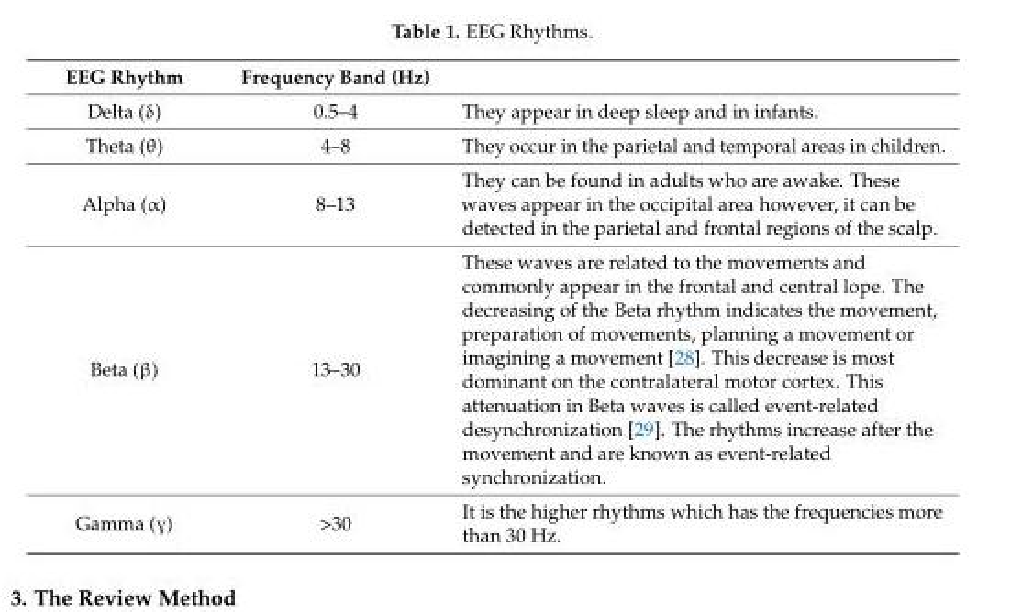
<table><thead><tr><td>EEG Rhythm</td><td>Frequency Band (Hz)</td><td></td></tr></thead><tbody><tr><td>Delta (δ)</td><td>0.5–4</td><td>They appear in deep sleep and in infants.</td></tr><tr><td>Theta (θ)</td><td>4–8</td><td>They occur in the parietal and temporal areas in children.</td></tr><tr><td>Alpha (α)</td><td>8–13</td><td>They can be found in adults who are awake. These waves appear in the occipital area however, it can be detected in the parietal and frontal regions of the scalp.</td></tr><tr><td>Beta (β)</td><td>13–30</td><td>These waves are related to the movements and commonly appear in the frontal and central lope. The decreasing of the Beta rhythm indicates the movement, preparation of movements, planning a movement or imagining a movement [28]. This decrease is most dominant on the contralateral motor cortex. This attenuation in Beta waves is called event-related desynchronization [29]. The rhythms increase after the movement and are known as event-related synchronization.</td></tr><tr><td>Gamma (G)</td><td>&gt;30</td><td>It is the higher rhythms which has the frequencies more than 30 Hz.</td></tr></tbody></table>